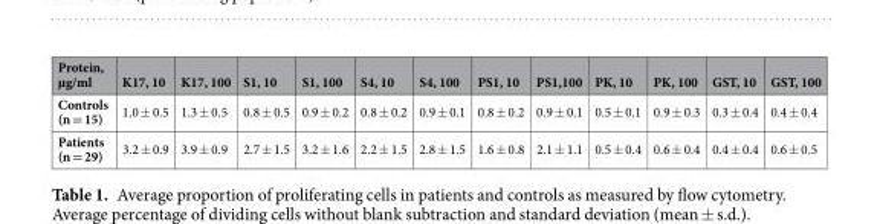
<table><thead><tr><td>Protein, µg/ml</td><td>K17, 10</td><td>K17, 100</td><td>S1, 10</td><td>S1, 100</td><td>S4, 10</td><td>S4, 100</td><td>PS1, 10</td><td>PS1,100</td><td>PK, 10</td><td>PK, 100</td><td>GST, 10</td><td>GST, 100</td></tr></thead><tbody><tr><td>Controls (n = 15)</td><td>1.0 ± 0.5</td><td>1.3 ± 0.5</td><td>0.8 ± 0.5</td><td>0.9 ± 0.2</td><td>0.8 ± 0.2</td><td>0.9 ± 0.1</td><td>0.8 ± 0.2</td><td>0.9 ± 0.1</td><td>0.5 ± 0.1</td><td>0.9 ± 0.3</td><td>0.3 ± 0.4</td><td>0.4 ± 0.4</td></tr><tr><td>Patients (n = 29)</td><td>3.2 ± 0.9</td><td>3.9 ± 0.9</td><td>2.7 ± 1.5</td><td>3.2 ± 1.6</td><td>2.2 ± 1.5</td><td>2.8 ± 1.5</td><td>1.6 ± 0.8</td><td>2.1 ± 1.1</td><td>0.5 ± 0.4</td><td>0.6 ± 0.4</td><td>0.4 ± 0.4</td><td>0.6 ± 0.5</td></tr></tbody></table>